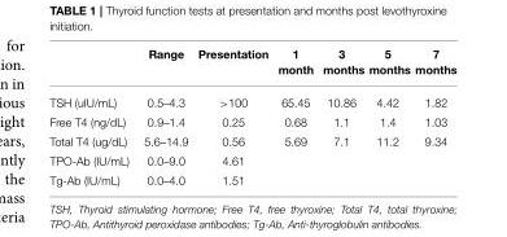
<table><thead><tr><td></td><td>Range</td><td>Presentation</td><td>1 month</td><td>3 months</td><td>5 months</td><td>7 months</td></tr></thead><tbody><tr><td>TSH (uIU/mL)</td><td>0.5–4.3</td><td>&gt;100</td><td>65.45</td><td>10.86</td><td>4.42</td><td>1.82</td></tr><tr><td>Free T4 (ng/dL)</td><td>0.9–1.4</td><td>0.25</td><td>0.68</td><td>1.1</td><td>1.4</td><td>1.03</td></tr><tr><td>Total T4 (ug/dL)</td><td>5.6–14.9</td><td>0.56</td><td>5.69</td><td>7.1</td><td>11.2</td><td>9.34</td></tr><tr><td>TPO-Ab (IU/mL)</td><td>0.0–9.0</td><td>4.61</td><td></td><td></td><td></td><td></td></tr><tr><td>Tg-Ab (IU/mL)</td><td>0.0–4.0</td><td>1.51</td><td></td><td></td><td></td><td></td></tr></tbody></table>